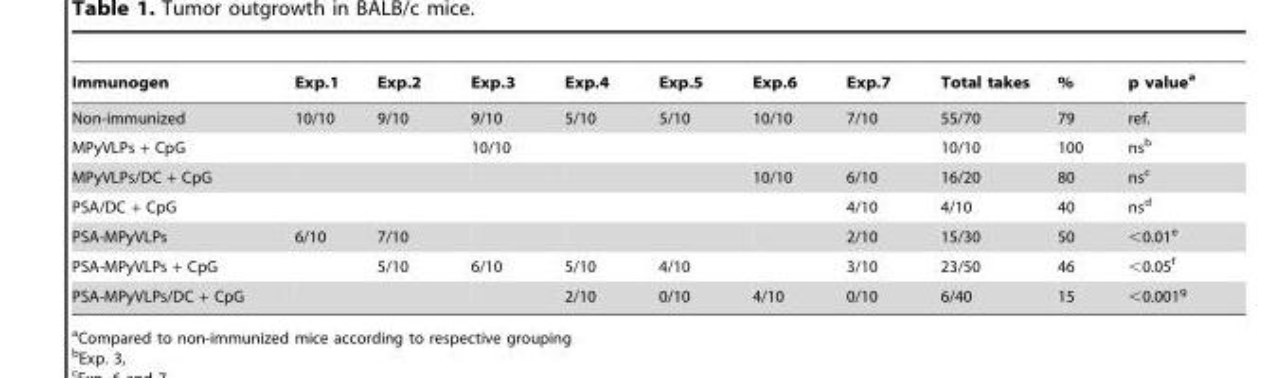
<table><thead><tr><td>Immunogen</td><td>Exp.1</td><td>Exp.2</td><td>Exp.3</td><td>Exp.4</td><td>Exp.5</td><td>Exp.6</td><td>Exp.7</td><td>Total takes</td><td>%</td><td>p value<sup>a</sup></td></tr></thead><tbody><tr><td>Non-immunized</td><td>10/10</td><td>9/10</td><td>9/10</td><td>5/10</td><td>5/10</td><td>10/10</td><td>7/10</td><td>55/70</td><td>79</td><td>ref.</td></tr><tr><td>MPyVLPs + CpG</td><td></td><td></td><td>10/10</td><td></td><td></td><td></td><td></td><td>10/10</td><td>100</td><td>ns<sup>b</sup></td></tr><tr><td>MPyVLPs/DC + CpG</td><td></td><td></td><td></td><td></td><td></td><td>10/10</td><td>6/10</td><td>16/20</td><td>80</td><td>ns<sup>c</sup></td></tr><tr><td>PSA/DC + CpG</td><td></td><td></td><td></td><td></td><td></td><td></td><td>4/10</td><td>4/10</td><td>40</td><td>ns<sup>d</sup></td></tr><tr><td>PSA-MPyVLPs</td><td>6/10</td><td>7/10</td><td></td><td></td><td></td><td></td><td>2/10</td><td>15/30</td><td>50</td><td>&lt;0.01<sup>e</sup></td></tr><tr><td>PSA-MPyVLPs + CpG</td><td></td><td>5/10</td><td>6/10</td><td>5/10</td><td>4/10</td><td></td><td>3/10</td><td>23/50</td><td>46</td><td>&lt;0.05<sup>f</sup></td></tr><tr><td>PSA-MPyVLPs/DC + CpG</td><td></td><td></td><td></td><td>2/10</td><td>0/10</td><td>4/10</td><td>0/10</td><td>6/40</td><td>15</td><td>&lt;0.001<sup>g</sup></td></tr></tbody></table>